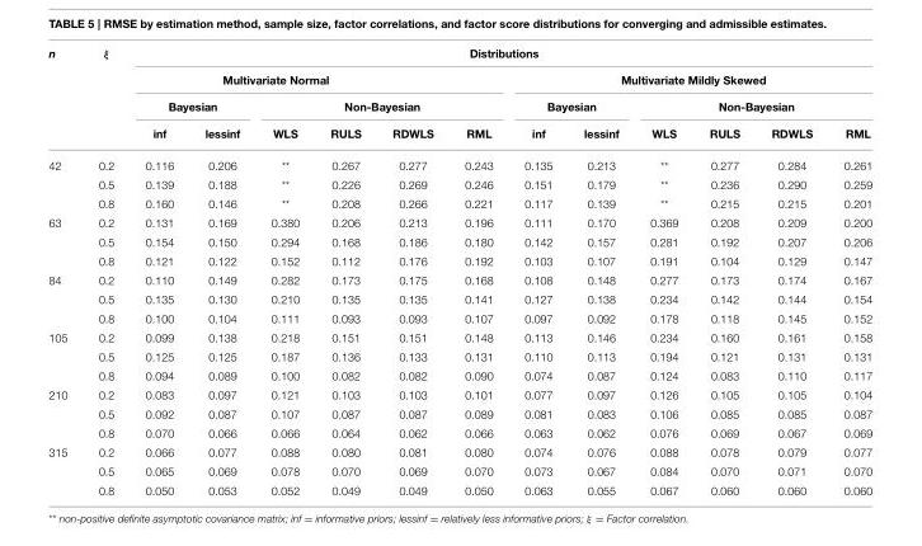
<table><thead><tr><td rowspan="4">n</td><td rowspan="4">ξ</td><td colspan="12">Distributions</td></tr><tr><td colspan="6">Multivariate Normal</td><td colspan="6">Multivariate Mildly Skewed</td></tr><tr><td colspan="2">Bayesian</td><td colspan="4">Non-Bayesian</td><td colspan="2">Bayesian</td><td colspan="4">Non-Bayesian</td></tr><tr><td>inf</td><td>lessinf</td><td>WLS</td><td>RULS</td><td>RDWLS</td><td>RML</td><td>inf</td><td>lessinf</td><td>WLS</td><td>RULS</td><td>RDWLS</td><td>RML</td></tr></thead><tbody><tr><td rowspan="3">42</td><td>0.2</td><td>0.116</td><td>0.206</td><td>**</td><td>0.267</td><td>0.277</td><td>0.243</td><td>0.135</td><td>0.213</td><td>**</td><td>0.277</td><td>0.284</td><td>0.261</td></tr><tr><td>0.5</td><td>0.139</td><td>0.188</td><td>**</td><td>0.226</td><td>0.269</td><td>0.246</td><td>0.151</td><td>0.179</td><td>**</td><td>0.236</td><td>0.290</td><td>0.259</td></tr><tr><td>0.8</td><td>0.160</td><td>0.146</td><td>**</td><td>0.208</td><td>0.266</td><td>0.221</td><td>0.117</td><td>0.139</td><td>**</td><td>0.215</td><td>0.215</td><td>0.201</td></tr><tr><td rowspan="3">63</td><td>0.2</td><td>0.131</td><td>0.169</td><td>0.380</td><td>0.206</td><td>0.213</td><td>0.196</td><td>0.111</td><td>0.170</td><td>0.369</td><td>0.208</td><td>0.209</td><td>0.200</td></tr><tr><td>0.5</td><td>0.154</td><td>0.150</td><td>0.294</td><td>0.168</td><td>0.186</td><td>0.180</td><td>0.142</td><td>0.157</td><td>0.281</td><td>0.192</td><td>0.207</td><td>0.206</td></tr><tr><td>0.8</td><td>0.121</td><td>0.122</td><td>0.152</td><td>0.112</td><td>0.176</td><td>0.192</td><td>0.103</td><td>0.107</td><td>0.191</td><td>0.104</td><td>0.129</td><td>0.147</td></tr><tr><td rowspan="3">84</td><td>0.2</td><td>0.110</td><td>0.149</td><td>0.282</td><td>0.173</td><td>0.175</td><td>0.168</td><td>0.108</td><td>0.148</td><td>0.277</td><td>0.173</td><td>0.174</td><td>0.167</td></tr><tr><td>0.5</td><td>0.135</td><td>0.130</td><td>0.210</td><td>0.135</td><td>0.135</td><td>0.141</td><td>0.127</td><td>0.138</td><td>0.234</td><td>0.142</td><td>0.144</td><td>0.154</td></tr><tr><td>0.8</td><td>0.100</td><td>0.104</td><td>0.111</td><td>0.093</td><td>0.093</td><td>0.107</td><td>0.097</td><td>0.092</td><td>0.178</td><td>0.118</td><td>0.145</td><td>0.152</td></tr><tr><td rowspan="3">105</td><td>0.2</td><td>0.099</td><td>0.138</td><td>0.218</td><td>0.151</td><td>0.151</td><td>0.148</td><td>0.113</td><td>0.146</td><td>0.234</td><td>0.160</td><td>0.161</td><td>0.158</td></tr><tr><td>0.5</td><td>0.125</td><td>0.125</td><td>0.187</td><td>0.136</td><td>0.133</td><td>0.131</td><td>0.110</td><td>0.113</td><td>0.194</td><td>0.121</td><td>0.131</td><td>0.131</td></tr><tr><td>0.8</td><td>0.094</td><td>0.089</td><td>0.100</td><td>0.082</td><td>0.082</td><td>0.090</td><td>0.074</td><td>0.087</td><td>0.124</td><td>0.083</td><td>0.110</td><td>0.117</td></tr><tr><td rowspan="3">210</td><td>0.2</td><td>0.083</td><td>0.097</td><td>0.121</td><td>0.103</td><td>0.103</td><td>0.101</td><td>0.077</td><td>0.097</td><td>0.126</td><td>0.105</td><td>0.105</td><td>0.104</td></tr><tr><td>0.5</td><td>0.092</td><td>0.087</td><td>0.107</td><td>0.087</td><td>0.087</td><td>0.089</td><td>0.081</td><td>0.083</td><td>0.106</td><td>0.085</td><td>0.085</td><td>0.087</td></tr><tr><td>0.8</td><td>0.070</td><td>0.066</td><td>0.066</td><td>0.064</td><td>0.062</td><td>0.066</td><td>0.063</td><td>0.062</td><td>0.076</td><td>0.069</td><td>0.067</td><td>0.069</td></tr><tr><td rowspan="3">315</td><td>0.2</td><td>0.066</td><td>0.077</td><td>0.088</td><td>0.080</td><td>0.081</td><td>0.080</td><td>0.074</td><td>0.076</td><td>0.088</td><td>0.078</td><td>0.079</td><td>0.077</td></tr><tr><td>0.5</td><td>0.065</td><td>0.069</td><td>0.078</td><td>0.070</td><td>0.069</td><td>0.070</td><td>0.073</td><td>0.067</td><td>0.084</td><td>0.070</td><td>0.071</td><td>0.070</td></tr><tr><td>0.8</td><td>0.050</td><td>0.053</td><td>0.052</td><td>0.049</td><td>0.049</td><td>0.050</td><td>0.063</td><td>0.055</td><td>0.067</td><td>0.060</td><td>0.060</td><td>0.060</td></tr></tbody></table>